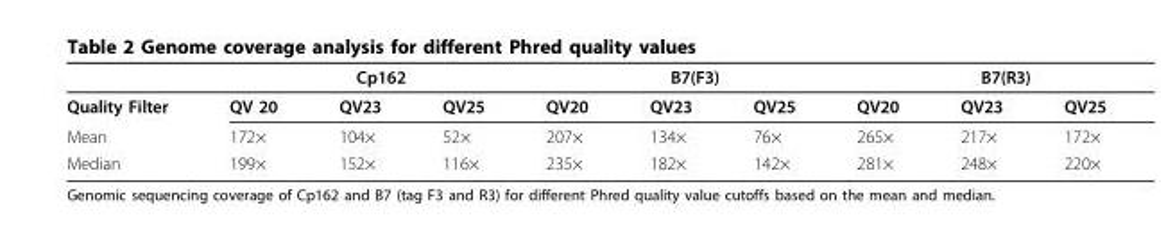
<table><thead><tr><td rowspan="2">Quality Filter</td><td colspan="3">Cp162</td><td colspan="3">B7(F3)</td><td colspan="3">B7(R3)</td></tr><tr><td>QV 20</td><td>QV23</td><td>QV25</td><td>QV20</td><td>QV23</td><td>QV25</td><td>QV20</td><td>QV23</td><td>QV25</td></tr></thead><tbody><tr><td>Mean</td><td>172×</td><td>104×</td><td>52×</td><td>207×</td><td>134×</td><td>76×</td><td>265×</td><td>217×</td><td>172×</td></tr><tr><td>Median</td><td>199×</td><td>152×</td><td>116×</td><td>235×</td><td>182×</td><td>142×</td><td>281×</td><td>248×</td><td>220×</td></tr></tbody></table>